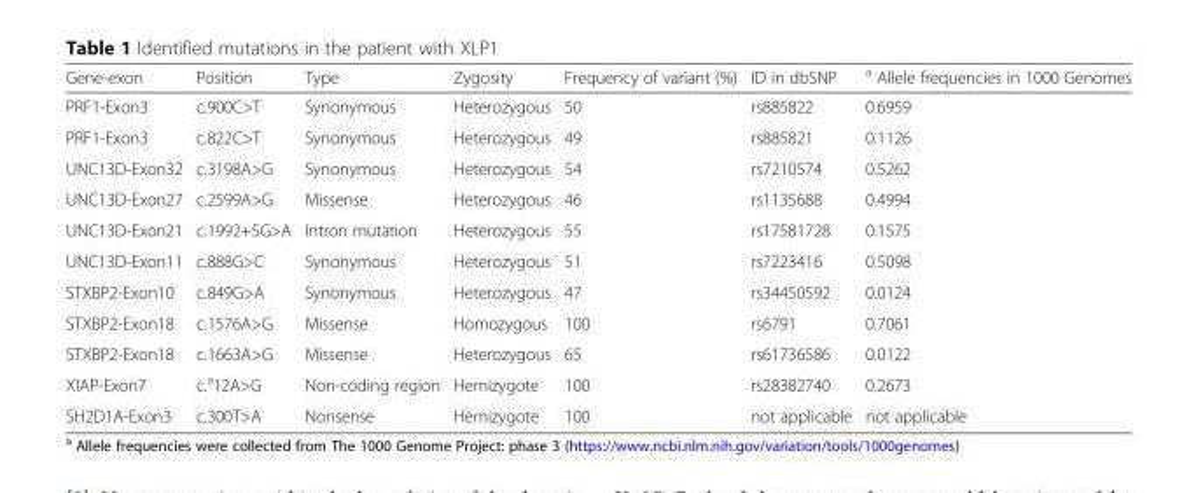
<table><thead><tr><td>Gene-exon</td><td>Position</td><td>Type</td><td>Zygosity</td><td>Frequency of variant (%)</td><td>ID in dbSNP</td><td><sup>a</sup> Allele frequencies in 1000 Genomes</td></tr></thead><tbody><tr><td>PRF1-Exon3</td><td>c.900C&gt;T</td><td>Synonymous</td><td>Heterozygous</td><td>50</td><td>rs885822</td><td>0.6959</td></tr><tr><td>PRF1-Exon3</td><td>c.822C&gt;T</td><td>Synonymous</td><td>Heterozygous</td><td>49</td><td>rs885821</td><td>0.1126</td></tr><tr><td>UNC13D-Exon32</td><td>c.3198A&gt;G</td><td>Synonymous</td><td>Heterozygous</td><td>54</td><td>rs7210574</td><td>0.5262</td></tr><tr><td>UNC13D-Exon27</td><td>c.2599A&gt;G</td><td>Missense</td><td>Heterozygous</td><td>46</td><td>rs1135688</td><td>0.4994</td></tr><tr><td>UNC13D-Exon21</td><td>c.1992+5G&gt;A</td><td>Intron mutation</td><td>Heterozygous</td><td>55</td><td>rs17581728</td><td>0.1575</td></tr><tr><td>UNC13D-Exon11</td><td>c.888G&gt;C</td><td>Synonymous</td><td>Heterozygous</td><td>51</td><td>rs7223416</td><td>0.5098</td></tr><tr><td>STXBP2-Exon10</td><td>c.849G&gt;A</td><td>Synonymous</td><td>Heterozygous</td><td>47</td><td>rs34450592</td><td>0.0124</td></tr><tr><td>STXBP2-Exon18</td><td>c.1576A&gt;G</td><td>Missense</td><td>Homozygous</td><td>100</td><td>rs6791</td><td>0.7061</td></tr><tr><td>STXBP2-Exon18</td><td>c.1663A&gt;G</td><td>Missense</td><td>Heterozygous</td><td>65</td><td>rs61736586</td><td>0.0122</td></tr><tr><td>XIAP-Exon7</td><td>c.<sup>a</sup>12A&gt;G</td><td>Non-coding region</td><td>Hemizygote</td><td>100</td><td>rs28382740</td><td>0.2673</td></tr><tr><td>SH2D1A-Exon3</td><td>c.300T&gt;A</td><td>Nonsense</td><td>Hemizygote</td><td>100</td><td>not applicable</td><td>not applicable</td></tr></tbody></table>